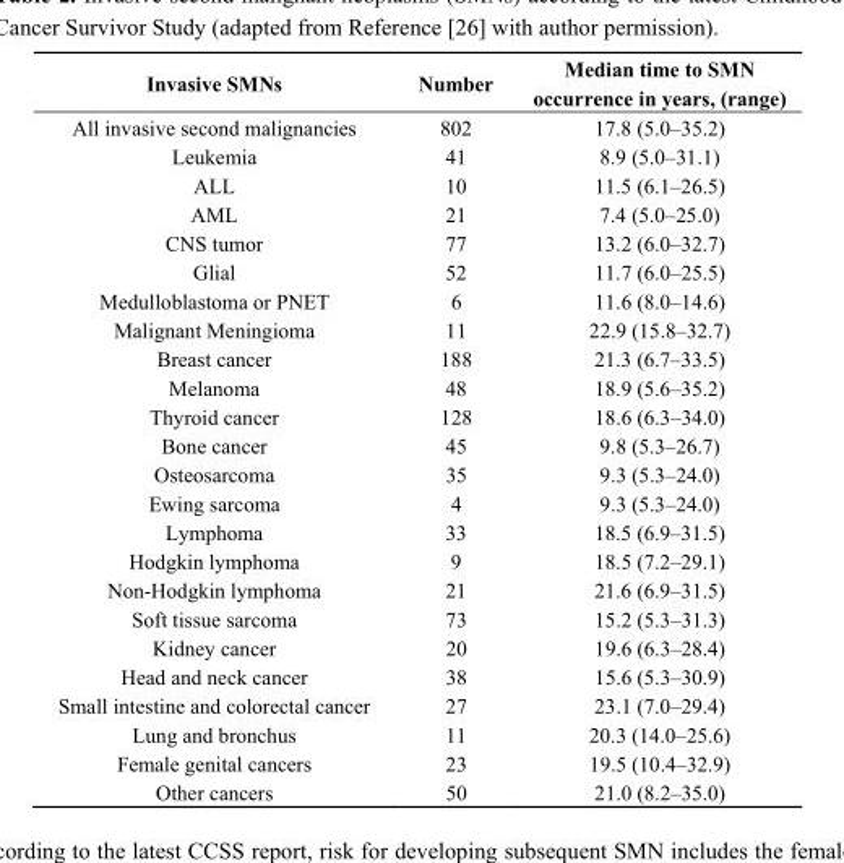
<table><thead><tr><td>Invasive SMNs</td><td>Number</td><td>Median time to SMN occurrence in years, (range)</td></tr></thead><tbody><tr><td>All invasive second malignancies</td><td>802</td><td>17.8 (5.0–35.2)</td></tr><tr><td>Leukemia</td><td>41</td><td>8.9 (5.0–31.1)</td></tr><tr><td>ALL</td><td>10</td><td>11.5 (6.1–26.5)</td></tr><tr><td>AML</td><td>21</td><td>7.4 (5.0–25.0)</td></tr><tr><td>CNS tumor</td><td>77</td><td>13.2 (6.0–32.7)</td></tr><tr><td>Glial</td><td>52</td><td>11.7 (6.0–25.5)</td></tr><tr><td>Medulloblastoma or PNET</td><td>6</td><td>11.6 (8.0–14.6)</td></tr><tr><td>Malignant Meningioma</td><td>11</td><td>22.9 (15.8–32.7)</td></tr><tr><td>Breast cancer</td><td>188</td><td>21.3 (6.7–33.5)</td></tr><tr><td>Melanoma</td><td>48</td><td>18.9 (5.6–35.2)</td></tr><tr><td>Thyroid cancer</td><td>128</td><td>18.6 (6.3–34.0)</td></tr><tr><td>Bone cancer</td><td>45</td><td>9.8 (5.3–26.7)</td></tr><tr><td>Osteosarcoma</td><td>35</td><td>9.3 (5.3–24.0)</td></tr><tr><td>Ewing sarcoma</td><td>4</td><td>9.3 (5.3–24.0)</td></tr><tr><td>Lymphoma</td><td>33</td><td>18.5 (6.9–31.5)</td></tr><tr><td>Hodgkin lymphoma</td><td>9</td><td>18.5 (7.2–29.1)</td></tr><tr><td>Non-Hodgkin lymphoma</td><td>21</td><td>21.6 (6.9–31.5)</td></tr><tr><td>Soft tissue sarcoma</td><td>73</td><td>15.2 (5.3–31.3)</td></tr><tr><td>Kidney cancer</td><td>20</td><td>19.6 (6.3–28.4)</td></tr><tr><td>Head and neck cancer</td><td>38</td><td>15.6 (5.3–30.9)</td></tr><tr><td>Small intestine and colorectal cancer</td><td>27</td><td>23.1 (7.0–29.4)</td></tr><tr><td>Lung and bronchus</td><td>11</td><td>20.3 (14.0–25.6)</td></tr><tr><td>Female genital cancers</td><td>23</td><td>19.5 (10.4–32.9)</td></tr><tr><td>Other cancers</td><td>50</td><td>21.0 (8.2–35.0)</td></tr></tbody></table>